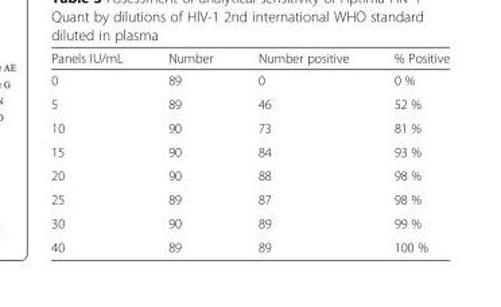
<table><thead><tr><td>Panels IU/mL</td><td>Number</td><td>Number positive</td><td>% Positive</td></tr></thead><tbody><tr><td>0</td><td>89</td><td>0</td><td>0 %</td></tr><tr><td>5</td><td>89</td><td>46</td><td>52 %</td></tr><tr><td>10</td><td>90</td><td>73</td><td>81 %</td></tr><tr><td>15</td><td>90</td><td>84</td><td>93 %</td></tr><tr><td>20</td><td>90</td><td>88</td><td>98 %</td></tr><tr><td>25</td><td>89</td><td>87</td><td>98 %</td></tr><tr><td>30</td><td>90</td><td>89</td><td>99 %</td></tr><tr><td>40</td><td>89</td><td>89</td><td>100 %</td></tr></tbody></table>